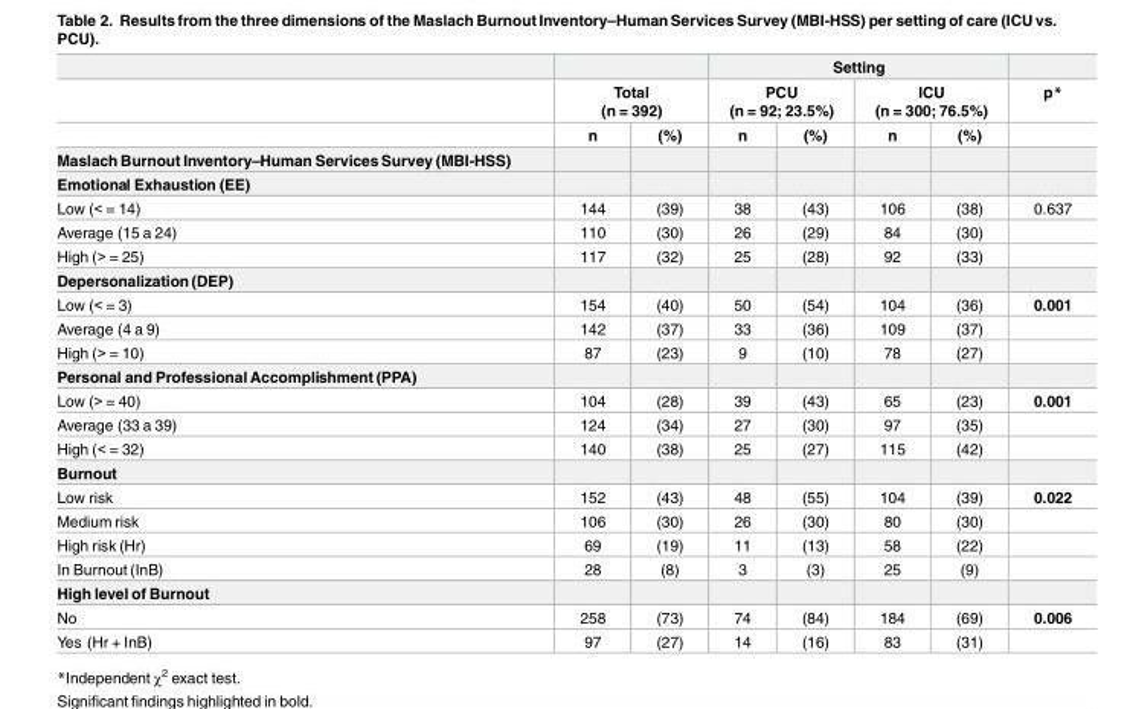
<table><thead><tr><td rowspan="3"></td><td></td><td></td><td colspan="4">Setting</td><td rowspan="3">p*</td></tr><tr><td colspan="2">Total (n = 392)</td><td colspan="2">PCU (n = 92; 23.5%)</td><td colspan="2">ICU (n = 300; 76.5%)</td></tr><tr><td>n</td><td>(%)</td><td>n</td><td>(%)</td><td>n</td><td>(%)</td></tr></thead><tbody><tr><td colspan="8">Maslach Burnout Inventory–Human Services Survey (MBI-HSS)</td></tr><tr><td colspan="8">Emotional Exhaustion (EE)</td></tr><tr><td>Low (&lt; = 14)</td><td>144</td><td>(39)</td><td>38</td><td>(43)</td><td>106</td><td>(38)</td><td>0.637</td></tr><tr><td>Average (15 a 24)</td><td>110</td><td>(30)</td><td>26</td><td>(29)</td><td>84</td><td>(30)</td><td></td></tr><tr><td>High (&gt; = 25)</td><td>117</td><td>(32)</td><td>25</td><td>(28)</td><td>92</td><td>(33)</td><td></td></tr><tr><td colspan="8">Depersonalization (DEP)</td></tr><tr><td>Low (&lt; = 3)</td><td>154</td><td>(40)</td><td>50</td><td>(54)</td><td>104</td><td>(36)</td><td>0.001</td></tr><tr><td>Average (4 a 9)</td><td>142</td><td>(37)</td><td>33</td><td>(36)</td><td>109</td><td>(37)</td><td></td></tr><tr><td>High (&gt; = 10)</td><td>87</td><td>(23)</td><td>9</td><td>(10)</td><td>78</td><td>(27)</td><td></td></tr><tr><td colspan="8">Personal and Professional Accomplishment (PPA)</td></tr><tr><td>Low (&gt; = 40)</td><td>104</td><td>(28)</td><td>39</td><td>(43)</td><td>65</td><td>(23)</td><td>0.001</td></tr><tr><td>Average (33 a 39)</td><td>124</td><td>(34)</td><td>27</td><td>(30)</td><td>97</td><td>(35)</td><td></td></tr><tr><td>High (&lt; = 32)</td><td>140</td><td>(38)</td><td>25</td><td>(27)</td><td>115</td><td>(42)</td><td></td></tr><tr><td colspan="8">Burnout</td></tr><tr><td>Low risk</td><td>152</td><td>(43)</td><td>48</td><td>(55)</td><td>104</td><td>(39)</td><td>0.022</td></tr><tr><td>Medium risk</td><td>106</td><td>(30)</td><td>26</td><td>(30)</td><td>80</td><td>(30)</td><td></td></tr><tr><td>High risk (Hr)</td><td>69</td><td>(19)</td><td>11</td><td>(13)</td><td>58</td><td>(22)</td><td></td></tr><tr><td>In Burnout (InB)</td><td>28</td><td>(8)</td><td>3</td><td>(3)</td><td>25</td><td>(9)</td><td></td></tr><tr><td colspan="8">High level of Burnout</td></tr><tr><td>No</td><td>258</td><td>(73)</td><td>74</td><td>(84)</td><td>184</td><td>(69)</td><td>0.006</td></tr><tr><td>Yes (Hr + InB)</td><td>97</td><td>(27)</td><td>14</td><td>(16)</td><td>83</td><td>(31)</td><td></td></tr></tbody></table>